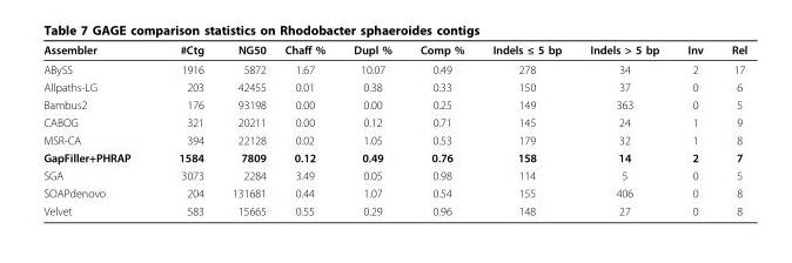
<table><thead><tr><td>Assembler</td><td>#Ctg</td><td>NG50</td><td>Chaff %</td><td>Dupl %</td><td>Comp %</td><td>Indels ≤ 5 bp</td><td>Indels &gt; 5 bp</td><td>Inv</td><td>Rel</td></tr></thead><tbody><tr><td>ABySS</td><td>1916</td><td>5872</td><td>1.67</td><td>10.07</td><td>0.49</td><td>278</td><td>34</td><td>2</td><td>17</td></tr><tr><td>Allpaths-LG</td><td>203</td><td>42455</td><td>0.01</td><td>0.38</td><td>0.33</td><td>150</td><td>37</td><td>0</td><td>6</td></tr><tr><td>Bambus2</td><td>176</td><td>93198</td><td>0.00</td><td>0.00</td><td>0.25</td><td>149</td><td>363</td><td>0</td><td>5</td></tr><tr><td>CABOG</td><td>321</td><td>20211</td><td>0.00</td><td>0.12</td><td>0.71</td><td>145</td><td>24</td><td>1</td><td>9</td></tr><tr><td>MSR-CA</td><td>394</td><td>22128</td><td>0.02</td><td>1.05</td><td>0.53</td><td>179</td><td>32</td><td>1</td><td>8</td></tr><tr><td>GapFiller+PHRAP</td><td>1584</td><td>7809</td><td>0.12</td><td>0.49</td><td>0.76</td><td>158</td><td>14</td><td>2</td><td>7</td></tr><tr><td>SGA</td><td>3073</td><td>2284</td><td>3.49</td><td>0.05</td><td>0.98</td><td>114</td><td>5</td><td>0</td><td>5</td></tr><tr><td>SOAPdenovo</td><td>204</td><td>131681</td><td>0.44</td><td>1.07</td><td>0.54</td><td>155</td><td>406</td><td>0</td><td>8</td></tr><tr><td>Velvet</td><td>583</td><td>15665</td><td>0.55</td><td>0.29</td><td>0.96</td><td>148</td><td>27</td><td>0</td><td>8</td></tr></tbody></table>